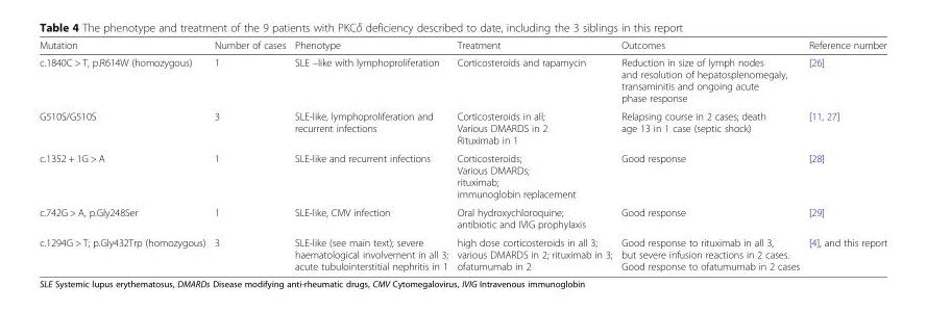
<table><thead><tr><td>Mutation</td><td>Number of cases</td><td>Phenotype</td><td>Treatment</td><td>Outcomes</td><td>Reference number</td></tr></thead><tbody><tr><td>c.1840C &gt; T, p.R614W (homozygous)</td><td>1</td><td>SLE –like with lymphoproliferation</td><td>Corticosteroids and rapamycin</td><td>Reduction in size of lymph nodes and resolution of hepatosplenomegaly, transaminitis and ongoing acute phase response</td><td>[26]</td></tr><tr><td>G510S/G510S</td><td>3</td><td>SLE-like, lymphoproliferation and recurrent infections</td><td>Corticosteroids in all; Various DMARDS in 2 Rituximab in 1</td><td>Relapsing course in 2 cases; death age 13 in 1 case (septic shock)</td><td>[11, 27]</td></tr><tr><td>c.1352 + 1G &gt; A</td><td>1</td><td>SLE-like and recurrent infections</td><td>Corticosteroids; Various DMARDs; rituximab; immunoglobin replacement</td><td>Good response</td><td>[28]</td></tr><tr><td>c.742G &gt; A, p.Gly248Ser</td><td>1</td><td>SLE-like, CMV infection</td><td>Oral hydroxychloroquine; antibiotic and IVIG prophylaxis</td><td>Good response</td><td>[29]</td></tr><tr><td>c.1294G &gt; T; p.Gly432Trp (homozygous)</td><td>3</td><td>SLE-like (see main text); severe haematological involvement in all 3; acute tubulointerstitial nephritis in 1</td><td>high dose corticosteroids in all 3; various DMARDS in 2; rituximab in 3; ofatumumab in 2</td><td>Good response to rituximab in all 3, but severe infusion reactions in 2 cases. Good response to ofatumumab in 2 cases</td><td>[4], and this report</td></tr></tbody></table>